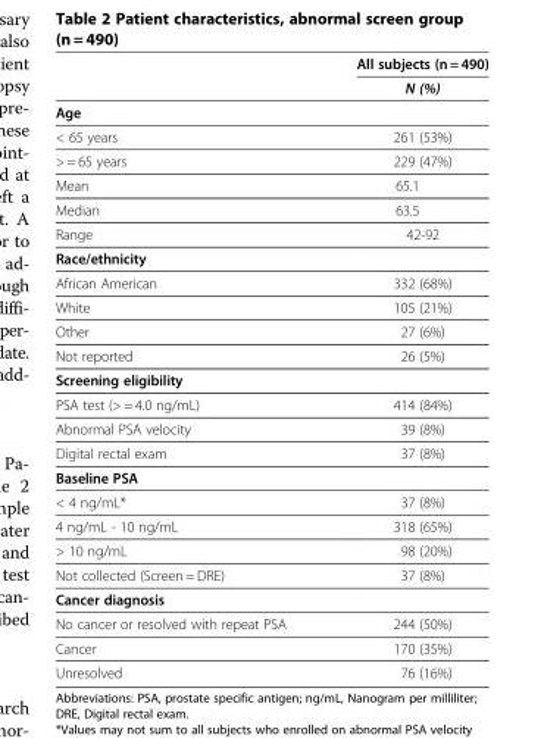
<table><thead><tr><td rowspan="2"></td><td rowspan="2">All subjects (n = 490) N (%)</td></tr><tr></tr></thead><tbody><tr><td colspan="2">Age</td></tr><tr><td>&lt; 65 years</td><td>261 (53%)</td></tr><tr><td>&gt; = 65 years</td><td>229 (47%)</td></tr><tr><td>Mean</td><td>65.1</td></tr><tr><td>Median</td><td>63.5</td></tr><tr><td>Range</td><td>42-92</td></tr><tr><td colspan="2">Race/ethnicity</td></tr><tr><td>African American</td><td>332 (68%)</td></tr><tr><td>White</td><td>105 (21%)</td></tr><tr><td>Other</td><td>27 (6%)</td></tr><tr><td>Not reported</td><td>26 (5%)</td></tr><tr><td colspan="2">Screening eligibility</td></tr><tr><td>PSA test (&gt; = 4.0 ng/mL)</td><td>414 (84%)</td></tr><tr><td>Abnormal PSA velocity</td><td>39 (8%)</td></tr><tr><td>Digital rectal exam</td><td>37 (8%)</td></tr><tr><td colspan="2">Baseline PSA</td></tr><tr><td>&lt; 4 ng/mL*</td><td>37 (8%)</td></tr><tr><td>4 ng/mL - 10 ng/mL</td><td>318 (65%)</td></tr><tr><td>&gt; 10 ng/mL</td><td>98 (20%)</td></tr><tr><td>Not collected (Screen = DRE)</td><td>37 (8%)</td></tr><tr><td colspan="2">Cancer diagnosis</td></tr><tr><td>No cancer or resolved with repeat PSA</td><td>244 (50%)</td></tr><tr><td>Cancer</td><td>170 (35%)</td></tr><tr><td>Unresolved</td><td>76 (16%)</td></tr></tbody></table>